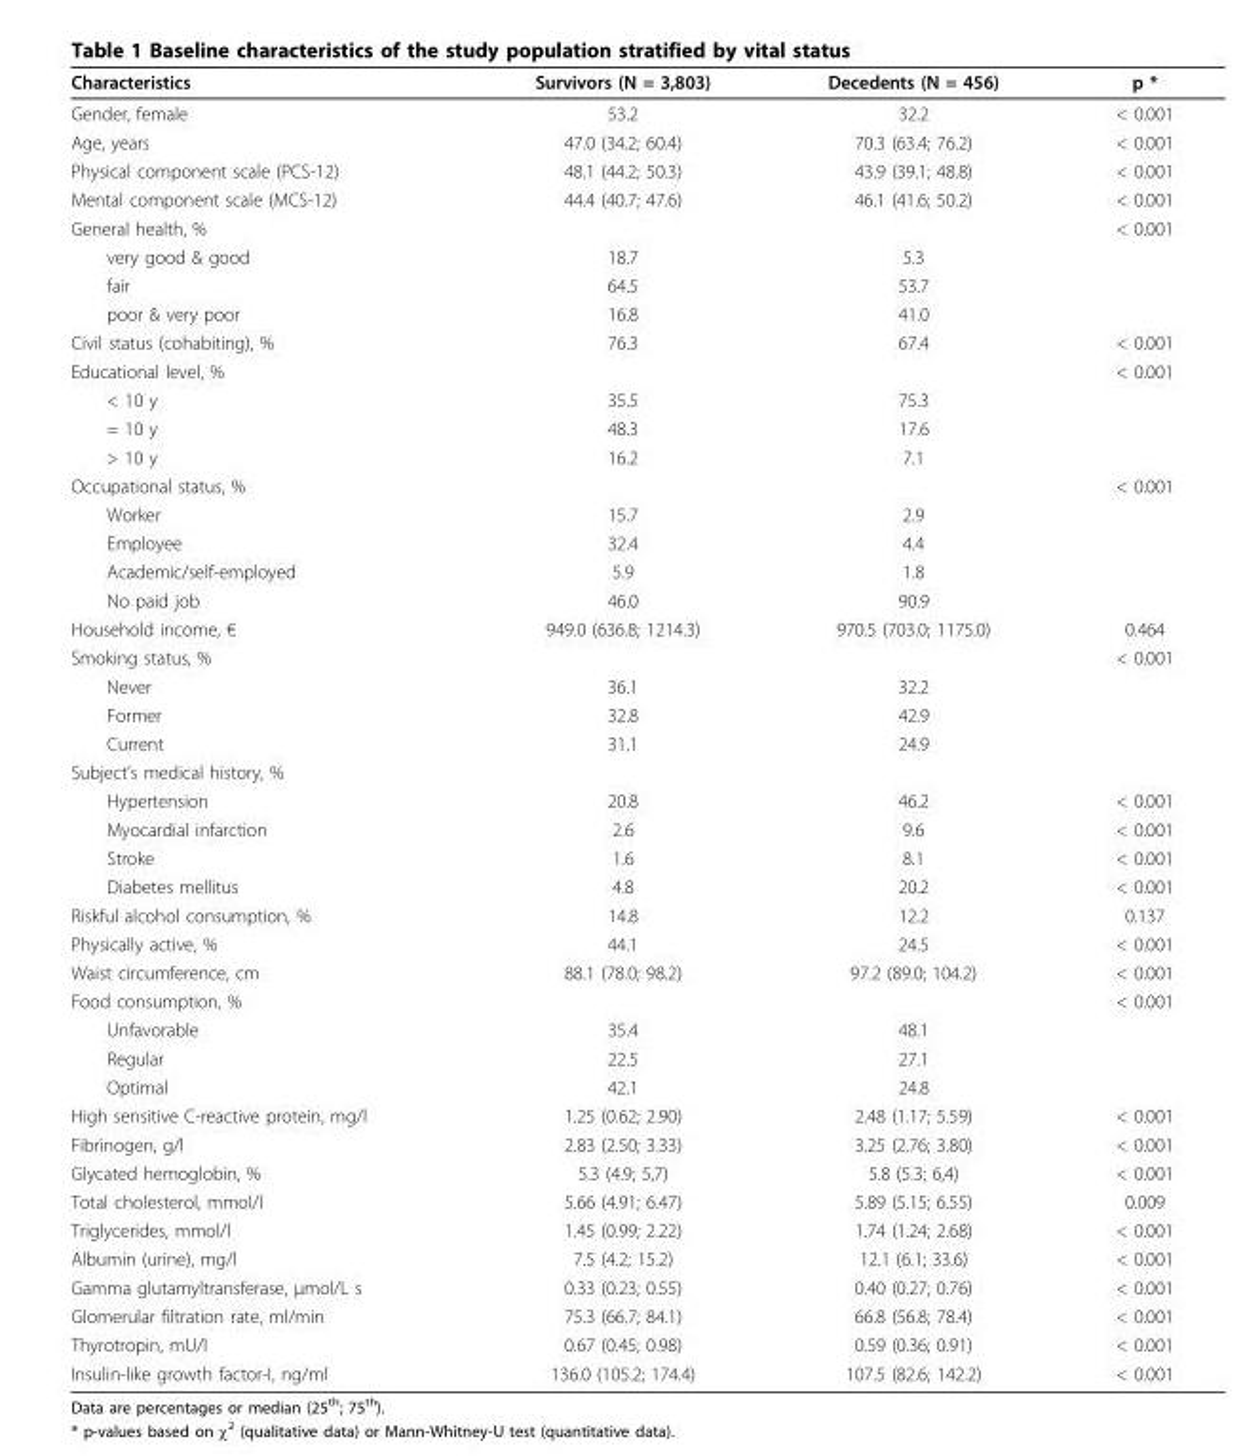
<table><thead><tr><td>Characteristics</td><td>Survivors (N = 3,803)</td><td>Decedents (N = 456)</td><td>p *</td></tr></thead><tbody><tr><td>Gender, female</td><td>53.2</td><td>32.2</td><td>&lt; 0.001</td></tr><tr><td>Age, years</td><td>47.0 (34.2; 60.4)</td><td>70.3 (63.4; 76.2)</td><td>&lt; 0.001</td></tr><tr><td>Physical component scale (PCS-12)</td><td>48.1 (44.2; 50.3)</td><td>43.9 (39.1; 48.8)</td><td>&lt; 0.001</td></tr><tr><td>Mental component scale (MCS-12)</td><td>44.4 (40.7; 47.6)</td><td>46.1 (41.6; 50.2)</td><td>&lt; 0.001</td></tr><tr><td>General health, %</td><td></td><td></td><td>&lt; 0.001</td></tr><tr><td>very good &amp; good</td><td>18.7</td><td>5.3</td><td></td></tr><tr><td>fair</td><td>64.5</td><td>53.7</td><td></td></tr><tr><td>poor &amp; very poor</td><td>16.8</td><td>41.0</td><td></td></tr><tr><td>Civil status (cohabiting), %</td><td>76.3</td><td>67.4</td><td>&lt; 0.001</td></tr><tr><td>Educational level, %</td><td></td><td></td><td>&lt; 0.001</td></tr><tr><td>&lt; 10 y</td><td>35.5</td><td>75.3</td><td></td></tr><tr><td>= 10 y</td><td>48.3</td><td>17.6</td><td></td></tr><tr><td>&gt; 10 y</td><td>16.2</td><td>7.1</td><td></td></tr><tr><td>Occupational status, %</td><td></td><td></td><td>&lt; 0.001</td></tr><tr><td>Worker</td><td>15.7</td><td>2.9</td><td></td></tr><tr><td>Employee</td><td>32.4</td><td>4.4</td><td></td></tr><tr><td>Academic/self-employed</td><td>5.9</td><td>1.8</td><td></td></tr><tr><td>No paid job</td><td>46.0</td><td>90.9</td><td></td></tr><tr><td>Household income, €</td><td>949.0 (636.8; 1214.3)</td><td>970.5 (703.0; 1175.0)</td><td>0.464</td></tr><tr><td>Smoking status, %</td><td></td><td></td><td>&lt; 0.001</td></tr><tr><td>Never</td><td>36.1</td><td>32.2</td><td></td></tr><tr><td>Former</td><td>32.8</td><td>42.9</td><td></td></tr><tr><td>Current</td><td>31.1</td><td>24.9</td><td></td></tr><tr><td colspan="4">Subject’s medical history, %</td></tr><tr><td>Hypertension</td><td>20.8</td><td>46.2</td><td>&lt; 0.001</td></tr><tr><td>Myocardial infarction</td><td>2.6</td><td>9.6</td><td>&lt; 0.001</td></tr><tr><td>Stroke</td><td>1.6</td><td>8.1</td><td>&lt; 0.001</td></tr><tr><td>Diabetes mellitus</td><td>4.8</td><td>20.2</td><td>&lt; 0.001</td></tr><tr><td>Riskful alcohol consumption, %</td><td>14.8</td><td>12.2</td><td>0.137</td></tr><tr><td>Physically active, %</td><td>44.1</td><td>24.5</td><td>&lt; 0.001</td></tr><tr><td>Waist circumference, cm</td><td>88.1 (78.0; 98.2)</td><td>97.2 (89.0; 104.2)</td><td>&lt; 0.001</td></tr><tr><td>Food consumption, %</td><td></td><td></td><td>&lt; 0.001</td></tr><tr><td>Unfavorable</td><td>35.4</td><td>48.1</td><td></td></tr><tr><td>Regular</td><td>22.5</td><td>27.1</td><td></td></tr><tr><td>Optimal</td><td>42.1</td><td>24.8</td><td></td></tr><tr><td>High sensitive C-reactive protein, mg/l</td><td>1.25 (0.62; 2.90)</td><td>2.48 (1.17; 5.59)</td><td>&lt; 0.001</td></tr><tr><td>Fibrinogen, g/l</td><td>2.83 (2.50; 3.33)</td><td>3.25 (2.76; 3.80)</td><td>&lt; 0.001</td></tr><tr><td>Glycated hemoglobin, %</td><td>5.3 (4.9; 5,7)</td><td>5.8 (5.3; 6,4)</td><td>&lt; 0.001</td></tr><tr><td>Total cholesterol, mmol/l</td><td>5.66 (4.91; 6.47)</td><td>5.89 (5.15; 6.55)</td><td>0.009</td></tr><tr><td>Triglycerides, mmol/l</td><td>1.45 (0.99; 2.22)</td><td>1.74 (1.24; 2.68)</td><td>&lt; 0.001</td></tr><tr><td>Albumin (urine), mg/l</td><td>7.5 (4.2; 15.2)</td><td>12.1 (6.1; 33.6)</td><td>&lt; 0.001</td></tr><tr><td>Gamma glutamyltransferase, μmol/L s</td><td>0.33 (0.23; 0.55)</td><td>0.40 (0.27; 0.76)</td><td>&lt; 0.001</td></tr><tr><td>Glomerular filtration rate, ml/min</td><td>75.3 (66.7; 84.1)</td><td>66.8 (56.8; 78.4)</td><td>&lt; 0.001</td></tr><tr><td>Thyrotropin, mU/l</td><td>0.67 (0.45; 0.98)</td><td>0.59 (0.36; 0.91)</td><td>&lt; 0.001</td></tr><tr><td>Insulin-like growth factor-I, ng/ml</td><td>136.0 (105.2; 174.4)</td><td>107.5 (82.6; 142.2)</td><td>&lt; 0.001</td></tr></tbody></table>